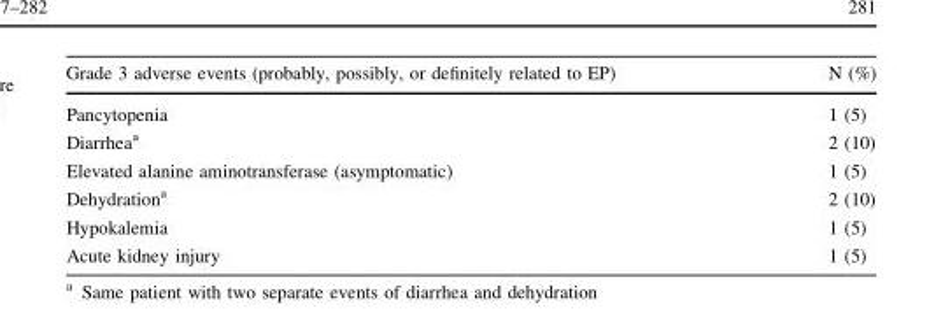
<table><thead><tr><td>Grade 3 adverse events (probably, possibly, or definitely related to EP)</td><td>N (%)</td></tr></thead><tbody><tr><td>Pancytopenia</td><td>1 (5)</td></tr><tr><td>Diarrhea<sup>a</sup></td><td>2 (10)</td></tr><tr><td>Elevated alanine aminotransferase (asymptomatic)</td><td>1 (5)</td></tr><tr><td>Dehydration<sup>a</sup></td><td>2 (10)</td></tr><tr><td>Hypokalemia</td><td>1 (5)</td></tr><tr><td>Acute kidney injury</td><td>1 (5)</td></tr></tbody></table>